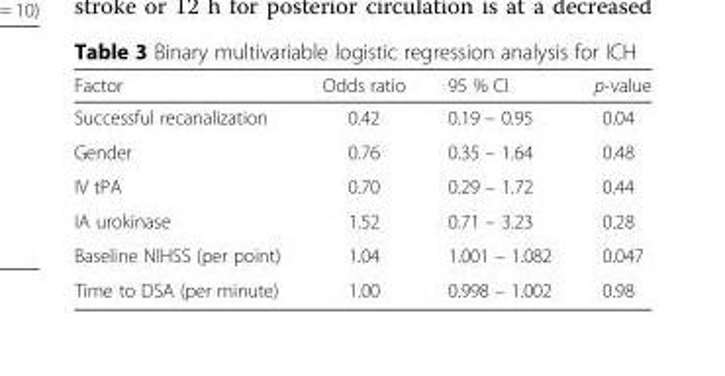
<table><thead><tr><td>Factor</td><td>Odds ratio</td><td>95 % CI</td><td>p-value</td></tr></thead><tbody><tr><td>Successful recanalization</td><td>0.42</td><td>0.19 – 0.95</td><td>0.04</td></tr><tr><td>Gender</td><td>0.76</td><td>0.35 – 1.64</td><td>0.48</td></tr><tr><td>IV tPA</td><td>0.70</td><td>0.29 – 1.72</td><td>0.44</td></tr><tr><td>IA urokinase</td><td>1.52</td><td>0.71 – 3.23</td><td>0.28</td></tr><tr><td>Baseline NIHSS (per point)</td><td>1.04</td><td>1.001 – 1.082</td><td>0.047</td></tr><tr><td>Time to DSA (per minute)</td><td>1.00</td><td>0.998 – 1.002</td><td>0.98</td></tr></tbody></table>